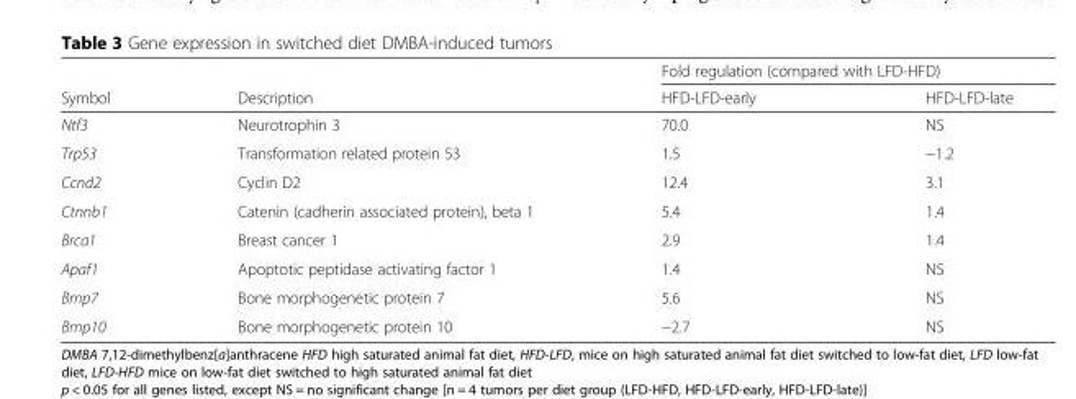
<table><thead><tr><td rowspan="2">Symbol</td><td rowspan="2">Description</td><td colspan="2">Fold regulation (compared with LFD-HFD)</td></tr><tr><td>HFD-LFD-early</td><td>HFD-LFD-late</td></tr></thead><tbody><tr><td>Ntf3</td><td>Neurotrophin 3</td><td>70.0</td><td>NS</td></tr><tr><td>Trp53</td><td>Transformation related protein 53</td><td>1.5</td><td>−1.2</td></tr><tr><td>Ccnd2</td><td>Cyclin D2</td><td>12.4</td><td>3.1</td></tr><tr><td>Ctnnb1</td><td>Catenin (cadherin associated protein), beta 1</td><td>5.4</td><td>1.4</td></tr><tr><td>Brca1</td><td>Breast cancer 1</td><td>2.9</td><td>1.4</td></tr><tr><td>Apaf1</td><td>Apoptotic peptidase activating factor 1</td><td>1.4</td><td>NS</td></tr><tr><td>Bmp7</td><td>Bone morphogenetic protein 7</td><td>5.6</td><td>NS</td></tr><tr><td>Bmp10</td><td>Bone morphogenetic protein 10</td><td>−2.7</td><td>NS</td></tr></tbody></table>